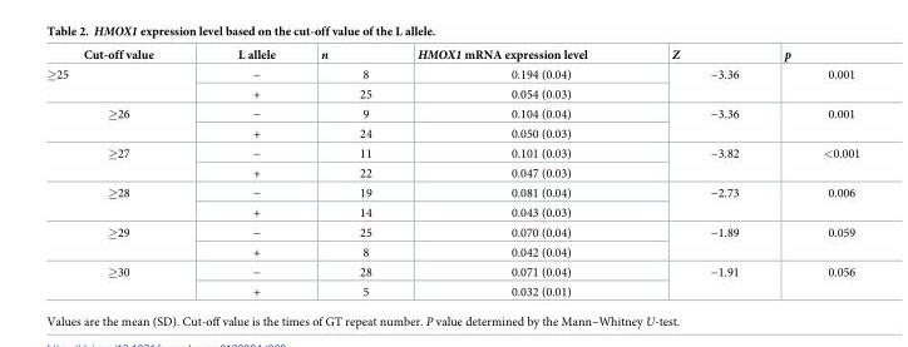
<table><thead><tr><td>Cut-off value</td><td>L allele</td><td>n</td><td>HMOX1 mRNA expression level</td><td>Z</td><td>p</td></tr></thead><tbody><tr><td rowspan="2">≥25</td><td>−</td><td>8</td><td>0.194 (0.04)</td><td rowspan="2">−3.36</td><td rowspan="2">0.001</td></tr><tr><td>+</td><td>25</td><td>0.054 (0.03)</td></tr><tr><td rowspan="2">≥26</td><td>−</td><td>9</td><td>0.104 (0.04)</td><td rowspan="2">−3.36</td><td rowspan="2">0.001</td></tr><tr><td>+</td><td>24</td><td>0.050 (0.03)</td></tr><tr><td rowspan="2">≥27</td><td>−</td><td>11</td><td>0.101 (0.03)</td><td rowspan="2">−3.82</td><td rowspan="2">&lt;0.001</td></tr><tr><td>+</td><td>22</td><td>0.047 (0.03)</td></tr><tr><td rowspan="2">≥28</td><td>−</td><td>19</td><td>0.081 (0.04)</td><td rowspan="2">−2.73</td><td rowspan="2">0.006</td></tr><tr><td>+</td><td>14</td><td>0.043 (0.03)</td></tr><tr><td rowspan="2">≥29</td><td>−</td><td>25</td><td>0.070 (0.04)</td><td rowspan="2">−1.89</td><td rowspan="2">0.059</td></tr><tr><td>+</td><td>8</td><td>0.042 (0.04)</td></tr><tr><td rowspan="2">≥30</td><td>−</td><td>28</td><td>0.071 (0.04)</td><td rowspan="2">−1.91</td><td rowspan="2">0.056</td></tr><tr><td>+</td><td>5</td><td>0.032 (0.01)</td></tr></tbody></table>